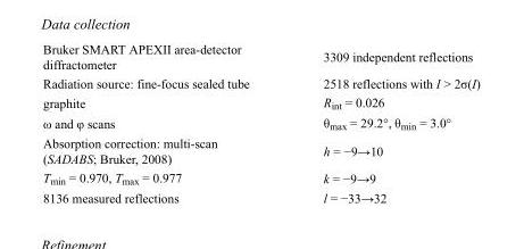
<table><tbody><tr><td>Bruker SMART APEXII area-detector diffractometer</td><td>3309 independent reflections</td></tr><tr><td>Radiation source: fine-focus sealed tube</td><td>2518 reflections with I &gt; 2σ(I)</td></tr><tr><td>graphite</td><td>R<sub>int</sub> = 0.026</td></tr><tr><td>ω and φ scans</td><td>θ<sub>max</sub> = 29.2°, θ<sub>min</sub> = 3.0°</td></tr><tr><td>Absorption correction: multi-scan (SADABS; Bruker, 2008)</td><td>h = −9→10</td></tr><tr><td>T<sub>min</sub> = 0.970, T<sub>max</sub> = 0.977</td><td>k = −9→9</td></tr><tr><td>8136 measured reflections</td><td>l = −33→32</td></tr></tbody></table>